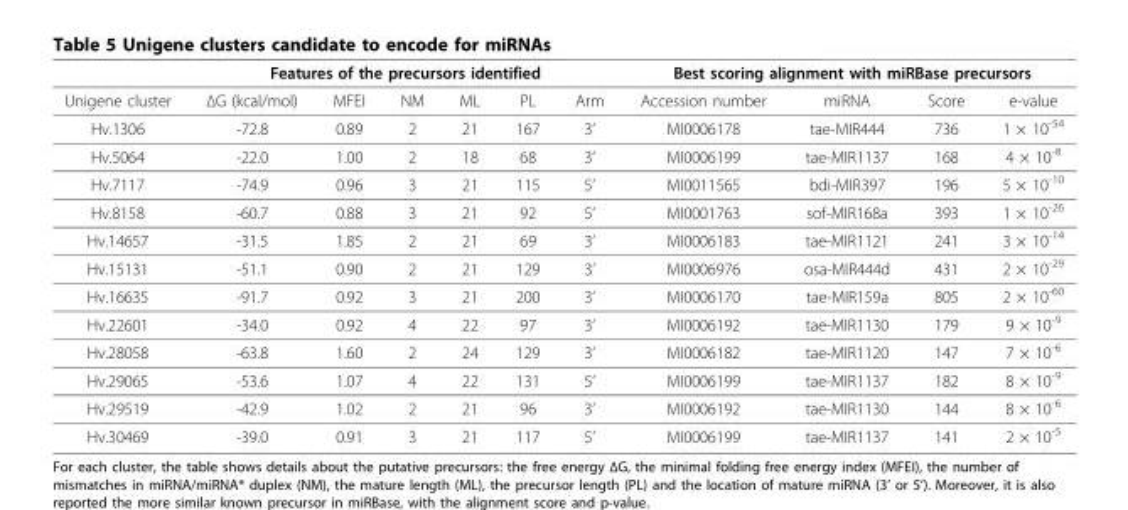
<table><thead><tr><td rowspan="2">Unigene cluster</td><td colspan="6">Features of the precursors identified</td><td colspan="4">Best scoring alignment with miRBase precursors</td></tr><tr><td>ΔG (kcal/mol)</td><td>MFEI</td><td>NM</td><td>ML</td><td>PL</td><td>Arm</td><td>Accession number</td><td>miRNA</td><td>Score</td><td>e-value</td></tr></thead><tbody><tr><td>Hv.1306</td><td>-72.8</td><td>0.89</td><td>2</td><td>21</td><td>167</td><td>3’</td><td>MI0006178</td><td>tae-MIR444</td><td>736</td><td>1 × 10<sup>-54</sup></td></tr><tr><td>Hv.5064</td><td>-22.0</td><td>1.00</td><td>2</td><td>18</td><td>68</td><td>3’</td><td>MI0006199</td><td>tae-MIR1137</td><td>168</td><td>4 × 10<sup>-8</sup></td></tr><tr><td>Hv.7117</td><td>-74.9</td><td>0.96</td><td>3</td><td>21</td><td>115</td><td>5’</td><td>MI0011565</td><td>bdi-MIR397</td><td>196</td><td>5 × 10<sup>-10</sup></td></tr><tr><td>Hv.8158</td><td>-60.7</td><td>0.88</td><td>3</td><td>21</td><td>92</td><td>5’</td><td>MI0001763</td><td>sof-MIR168a</td><td>393</td><td>1 × 10<sup>-26</sup></td></tr><tr><td>Hv.14657</td><td>-31.5</td><td>1.85</td><td>2</td><td>21</td><td>69</td><td>3’</td><td>MI0006183</td><td>tae-MIR1121</td><td>241</td><td>3 × 10<sup>-14</sup></td></tr><tr><td>Hv.15131</td><td>-51.1</td><td>0.90</td><td>2</td><td>21</td><td>129</td><td>3’</td><td>MI0006976</td><td>osa-MIR444d</td><td>431</td><td>2 × 10<sup>-29</sup></td></tr><tr><td>Hv.16635</td><td>-91.7</td><td>0.92</td><td>3</td><td>21</td><td>200</td><td>3’</td><td>MI0006170</td><td>tae-MIR159a</td><td>805</td><td>2 × 10<sup>-60</sup></td></tr><tr><td>Hv.22601</td><td>-34.0</td><td>0.92</td><td>4</td><td>22</td><td>97</td><td>3’</td><td>MI0006192</td><td>tae-MIR1130</td><td>179</td><td>9 × 10<sup>-9</sup></td></tr><tr><td>Hv.28058</td><td>-63.8</td><td>1.60</td><td>2</td><td>24</td><td>129</td><td>3’</td><td>MI0006182</td><td>tae-MIR1120</td><td>147</td><td>7 × 10<sup>-6</sup></td></tr><tr><td>Hv.29065</td><td>-53.6</td><td>1.07</td><td>4</td><td>22</td><td>131</td><td>5’</td><td>MI0006199</td><td>tae-MIR1137</td><td>182</td><td>8 × 10<sup>-9</sup></td></tr><tr><td>Hv.29519</td><td>-42.9</td><td>1.02</td><td>2</td><td>21</td><td>96</td><td>3’</td><td>MI0006192</td><td>tae-MIR1130</td><td>144</td><td>8 × 10<sup>-6</sup></td></tr><tr><td>Hv.30469</td><td>-39.0</td><td>0.91</td><td>3</td><td>21</td><td>117</td><td>5’</td><td>MI0006199</td><td>tae-MIR1137</td><td>141</td><td>2 × 10<sup>-5</sup></td></tr></tbody></table>